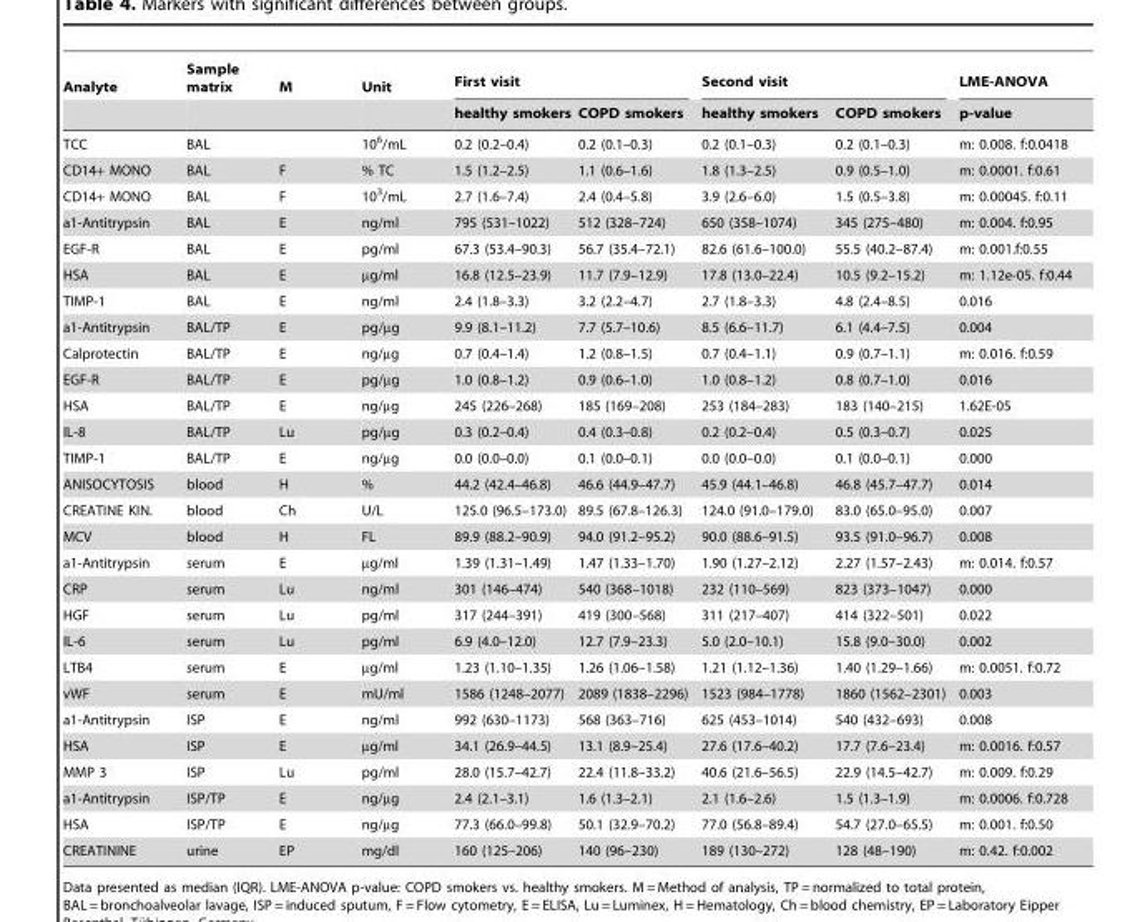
<table><thead><tr><td rowspan="2">Analyte</td><td rowspan="2">Sample matrix</td><td rowspan="2">M</td><td rowspan="2">Unit</td><td colspan="2">First visit</td><td colspan="2">Second visit</td><td rowspan="2">LME-ANOVA p-value</td></tr><tr><td>healthy smokers</td><td>COPD smokers</td><td>healthy smokers</td><td>COPD smokers</td></tr></thead><tbody><tr><td>TCC</td><td>BAL</td><td></td><td>10<sup>6</sup>/mL</td><td>0.2 (0.2–0.4)</td><td>0.2 (0.1–0.3)</td><td>0.2 (0.1–0.3)</td><td>0.2 (0.1–0.3)</td><td>m: 0.008. f:0.0418</td></tr><tr><td>CD14+ MONO</td><td>BAL</td><td>F</td><td>% TC</td><td>1.5 (1.2–2.5)</td><td>1.1 (0.6–1.6)</td><td>1.8 (1.3–2.5)</td><td>0.9 (0.5–1.0)</td><td>m: 0.0001. f:0.61</td></tr><tr><td>CD14+ MONO</td><td>BAL</td><td>F</td><td>10<sup>3</sup>/mL</td><td>2.7 (1.6–7.4)</td><td>2.4 (0.4–5.8)</td><td>3.9 (2.6–6.0)</td><td>1.5 (0.5–3.8)</td><td>m: 0.00045. f:0.11</td></tr><tr><td>a1-Antitrypsin</td><td>BAL</td><td>E</td><td>ng/ml</td><td>795 (531–1022)</td><td>512 (328–724)</td><td>650 (358–1074)</td><td>345 (275–480)</td><td>m: 0.004. f:0.95</td></tr><tr><td>EGF-R</td><td>BAL</td><td>E</td><td>pg/ml</td><td>67.3 (53.4–90.3)</td><td>56.7 (35.4–72.1)</td><td>82.6 (61.6–100.0)</td><td>55.5 (40.2–87.4)</td><td>m: 0.001.f:0.55</td></tr><tr><td>HSA</td><td>BAL</td><td>E</td><td>µg/ml</td><td>16.8 (12.5–23.9)</td><td>11.7 (7.9–12.9)</td><td>17.8 (13.0–22.4)</td><td>10.5 (9.2–15.2)</td><td>m: 1.12e-05. f:0.44</td></tr><tr><td>TIMP-1</td><td>BAL</td><td>E</td><td>ng/ml</td><td>2.4 (1.8–3.3)</td><td>3.2 (2.2–4.7)</td><td>2.7 (1.8–3.3)</td><td>4.8 (2.4–8.5)</td><td>0.016</td></tr><tr><td>a1-Antitrypsin</td><td>BAL/TP</td><td>E</td><td>pg/µg</td><td>9.9 (8.1–11.2)</td><td>7.7 (5.7–10.6)</td><td>8.5 (6.6–11.7)</td><td>6.1 (4.4–7.5)</td><td>0.004</td></tr><tr><td>Calprotectin</td><td>BAL/TP</td><td>E</td><td>ng/µg</td><td>0.7 (0.4–1.4)</td><td>1.2 (0.8–1.5)</td><td>0.7 (0.4–1.1)</td><td>0.9 (0.7–1.1)</td><td>m: 0.016. f:0.59</td></tr><tr><td>EGF-R</td><td>BAL/TP</td><td>E</td><td>pg/µg</td><td>1.0 (0.8–1.2)</td><td>0.9 (0.6–1.0)</td><td>1.0 (0.8–1.2)</td><td>0.8 (0.7–1.0)</td><td>0.016</td></tr><tr><td>HSA</td><td>BAL/TP</td><td>E</td><td>ng/µg</td><td>245 (226–268)</td><td>185 (169–208)</td><td>253 (184–283)</td><td>183 (140–215)</td><td>1.62E-05</td></tr><tr><td>IL-8</td><td>BAL/TP</td><td>Lu</td><td>pg/µg</td><td>0.3 (0.2–0.4)</td><td>0.4 (0.3–0.8)</td><td>0.2 (0.2–0.4)</td><td>0.5 (0.3–0.7)</td><td>0.025</td></tr><tr><td>TIMP-1</td><td>BAL/TP</td><td>E</td><td>ng/µg</td><td>0.0 (0.0–0.0)</td><td>0.1 (0.0–0.1)</td><td>0.0 (0.0–0.0)</td><td>0.1 (0.0–0.1)</td><td>0.000</td></tr><tr><td>ANISOCYTOSIS</td><td>blood</td><td>H</td><td>%</td><td>44.2 (42.4–46.8)</td><td>46.6 (44.9–47.7)</td><td>45.9 (44.1–46.8)</td><td>46.8 (45.7–47.7)</td><td>0.014</td></tr><tr><td>CREATINE KIN.</td><td>blood</td><td>Ch</td><td>U/L</td><td>125.0 (96.5–173.0)</td><td>89.5 (67.8–126.3)</td><td>124.0 (91.0–179.0)</td><td>83.0 (65.0–95.0)</td><td>0.007</td></tr><tr><td>MCV</td><td>blood</td><td>H</td><td>FL</td><td>89.9 (88.2–90.9)</td><td>94.0 (91.2–95.2)</td><td>90.0 (88.6–91.5)</td><td>93.5 (91.0–96.7)</td><td>0.008</td></tr><tr><td>a1-Antitrypsin</td><td>serum</td><td>E</td><td>µg/ml</td><td>1.39 (1.31–1.49)</td><td>1.47 (1.33–1.70)</td><td>1.90 (1.27–2.12)</td><td>2.27 (1.57–2.43)</td><td>m: 0.014. f:0.57</td></tr><tr><td>CRP</td><td>serum</td><td>Lu</td><td>ng/ml</td><td>301 (146–474)</td><td>540 (368–1018)</td><td>232 (110–569)</td><td>823 (373–1047)</td><td>0.000</td></tr><tr><td>HGF</td><td>serum</td><td>Lu</td><td>pg/ml</td><td>317 (244–391)</td><td>419 (300–568)</td><td>311 (217–407)</td><td>414 (322–501)</td><td>0.022</td></tr><tr><td>IL-6</td><td>serum</td><td>Lu</td><td>pg/ml</td><td>6.9 (4.0–12.0)</td><td>12.7 (7.9–23.3)</td><td>5.0 (2.0–10.1)</td><td>15.8 (9.0–30.0)</td><td>0.002</td></tr><tr><td>LTB4</td><td>serum</td><td>E</td><td>µg/ml</td><td>1.23 (1.10–1.35)</td><td>1.26 (1.06–1.58)</td><td>1.21 (1.12–1.36)</td><td>1.40 (1.29–1.66)</td><td>m: 0.0051. f:0.72</td></tr><tr><td>vWF</td><td>serum</td><td>E</td><td>mU/ml</td><td>1586 (1248–2077)</td><td>2089 (1838–2296)</td><td>1523 (984–1778)</td><td>1860 (1562–2301)</td><td>0.003</td></tr><tr><td>a1-Antitrypsin</td><td>ISP</td><td>E</td><td>ng/ml</td><td>992 (630–1173)</td><td>568 (363–716)</td><td>625 (453–1014)</td><td>540 (432–693)</td><td>0.008</td></tr><tr><td>HSA</td><td>ISP</td><td>E</td><td>µg/ml</td><td>34.1 (26.9–44.5)</td><td>13.1 (8.9–25.4)</td><td>27.6 (17.6–40.2)</td><td>17.7 (7.6–23.4)</td><td>m: 0.0016. f:0.57</td></tr><tr><td>MMP 3</td><td>ISP</td><td>Lu</td><td>pg/ml</td><td>28.0 (15.7–42.7)</td><td>22.4 (11.8–33.2)</td><td>40.6 (21.6–56.5)</td><td>22.9 (14.5–42.7)</td><td>m: 0.009. f:0.29</td></tr><tr><td>a1-Antitrypsin</td><td>ISP/TP</td><td>E</td><td>ng/µg</td><td>2.4 (2.1–3.1)</td><td>1.6 (1.3–2.1)</td><td>2.1 (1.6–2.6)</td><td>1.5 (1.3–1.9)</td><td>m: 0.0006. f:0.728</td></tr><tr><td>HSA</td><td>ISP/TP</td><td>E</td><td>ng/µg</td><td>77.3 (66.0–99.8)</td><td>50.1 (32.9–70.2)</td><td>77.0 (56.8–89.4)</td><td>54.7 (27.0–65.5)</td><td>m: 0.001. f:0.50</td></tr><tr><td>CREATININE</td><td>urine</td><td>EP</td><td>mg/dl</td><td>160 (125–206)</td><td>140 (96–230)</td><td>189 (130–272)</td><td>128 (48–190)</td><td>m: 0.42. f:0.002</td></tr></tbody></table>